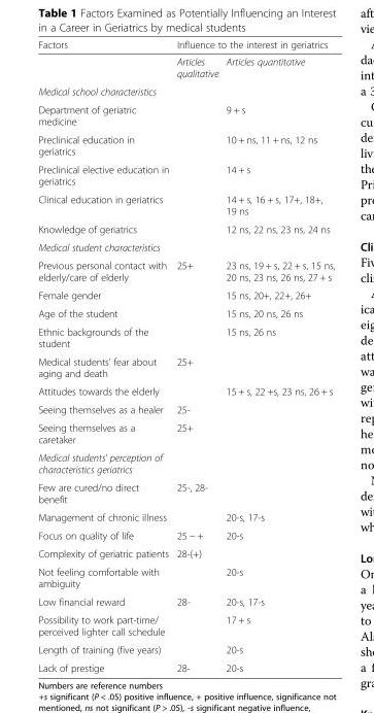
<table><thead><tr><td rowspan="2">Factors</td><td colspan="2">Influence to the interest in geriatrics</td></tr><tr><td>Articles qualitative</td><td>Articles quantitative</td></tr></thead><tbody><tr><td colspan="3">Medical school characteristics</td></tr><tr><td>Department of geriatric medicine</td><td></td><td>9 + s</td></tr><tr><td>Preclinical education in geriatrics</td><td></td><td>10 + ns, 11 + ns, 12 ns</td></tr><tr><td>Preclinical elective education in geriatrics</td><td></td><td>14 + s</td></tr><tr><td>Clinical education in geriatrics</td><td></td><td>14 + s, 16 + s, 17+, 18+, 19 ns</td></tr><tr><td>Knowledge of geriatrics</td><td></td><td>12 ns, 22 ns, 23 ns, 24 ns</td></tr><tr><td colspan="3">Medical student characteristics</td></tr><tr><td>Previous personal contact with elderly/care of elderly</td><td>25+</td><td>23 ns, 19 + s, 22 + s, 15 ns, 20 ns, 23 ns, 26 ns, 27 + s</td></tr><tr><td>Female gender</td><td></td><td>15 ns, 20+, 22+, 26+</td></tr><tr><td>Age of the student</td><td></td><td>15 ns, 20 ns, 26 ns</td></tr><tr><td>Ethnic backgrounds of the student</td><td></td><td>15 ns, 26 ns</td></tr><tr><td>Medical students’ fear about aging and death</td><td>25+</td><td></td></tr><tr><td>Attitudes towards the elderly</td><td></td><td>15 + s, 22 +s, 23 ns, 26 + s</td></tr><tr><td>Seeing themselves as a healer</td><td>25-</td><td></td></tr><tr><td>Seeing themselves as a caretaker</td><td>25+</td><td></td></tr><tr><td colspan="3">Medical students’ perception of characteristics geriatrics</td></tr><tr><td>Few are cured/no direct benefit</td><td>25-, 28-</td><td></td></tr><tr><td>Management of chronic illness</td><td></td><td>20-s, 17-s</td></tr><tr><td>Focus on quality of life</td><td>25 − +</td><td>20-s</td></tr><tr><td>Complexity of geriatric patients</td><td>28-(+)</td><td></td></tr><tr><td>Not feeling comfortable with ambiguity</td><td></td><td>20-s</td></tr><tr><td>Low financial reward</td><td>28-</td><td>20-s, 17-s</td></tr><tr><td>Possibility to work part-time/ perceived lighter call schedule</td><td></td><td>17 + s</td></tr><tr><td>Length of training (five years)</td><td></td><td>20-s</td></tr><tr><td>Lack of prestige</td><td>28-</td><td>20-s</td></tr></tbody></table>